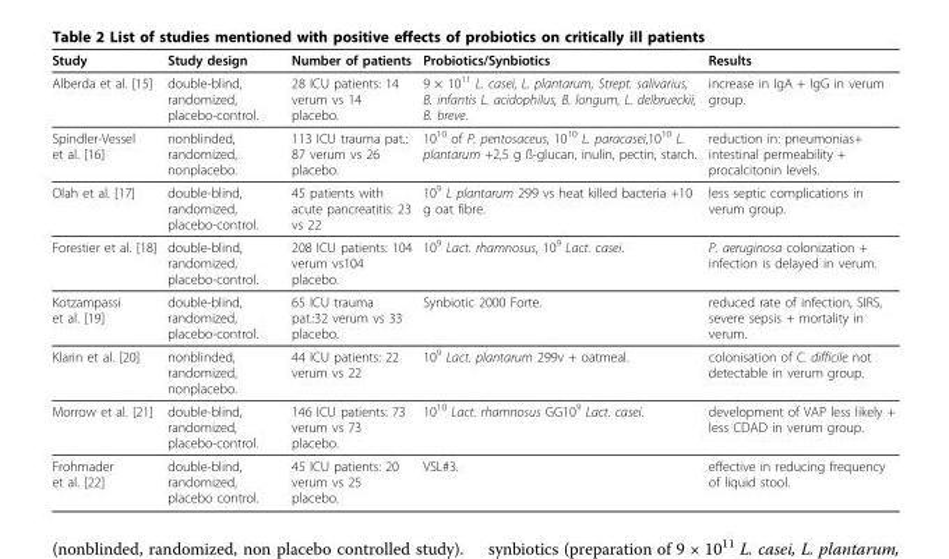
<table><thead><tr><td>Study</td><td>Study design</td><td>Number of patients</td><td>Probiotics/Synbiotics</td><td>Results</td></tr></thead><tbody><tr><td>Alberda et al. [15]</td><td>double-blind, randomized, placebo-control.</td><td>28 ICU patients: 14 verum vs 14 placebo.</td><td>9 × 10<sup>11</sup> L. casei, L. plantarum, Strept. salivarius, B. infantis L. acidophilus, B. longum, L. delbrueckii, B. breve.</td><td>increase in IgA + IgG in verum group.</td></tr><tr><td>Spindler-Vessel et al. [16]</td><td>nonblinded, randomized, nonplacebo.</td><td>113 ICU trauma pat.: 87 verum vs 26 placebo.</td><td>10<sup>10</sup> of P. pentosaceus, 10<sup>10</sup> L. paracasei,10<sup>10</sup> L. plantarum +2,5 g ß-glucan, inulin, pectin, starch.</td><td>reduction in: pneumonias+ intestinal permeability + procalcitonin levels.</td></tr><tr><td>Olah et al. [17]</td><td>double-blind, randomized, placebo-control.</td><td>45 patients with acute pancreatitis: 23 vs 22</td><td>10<sup>9</sup> L plantarum 299 vs heat killed bacteria +10 g oat fibre.</td><td>less septic complications in verum group.</td></tr><tr><td>Forestier et al. [18]</td><td>double-blind, randomized, placebo-control.</td><td>208 ICU patients: 104 verum vs104 placebo.</td><td>10<sup>9</sup> Lact. rhamnosus, 10<sup>9</sup> Lact. casei.</td><td>P. aeruginosa colonization + infection is delayed in verum.</td></tr><tr><td>Kotzampassi et al. [19]</td><td>double-blind, randomized, placebo-control.</td><td>65 ICU trauma pat.:32 verum vs 33 placebo.</td><td>Synbiotic 2000 Forte.</td><td>reduced rate of infection, SIRS, severe sepsis + mortality in verum.</td></tr><tr><td>Klarin et al. [20]</td><td>nonblinded, randomized, nonplacebo.</td><td>44 ICU patients: 22 verum vs 22</td><td>10<sup>9</sup> Lact. plantarum 299v + oatmeal.</td><td>colonisation of C. difficile not detectable in verum group.</td></tr><tr><td>Morrow et al. [21]</td><td>double-blind, randomized, placebo-control.</td><td>146 ICU patients: 73 verum vs 73 placebo.</td><td>10<sup>10</sup> Lact. rhamnosus GG10<sup>9</sup> Lact. casei.</td><td>development of VAP less likely + less CDAD in verum group.</td></tr><tr><td>Frohmader et al. [22]</td><td>double-blind, randomized, placebo control.</td><td>45 ICU patients: 20 verum vs 25 placebo.</td><td>VSL#3.</td><td>effective in reducing frequency of liquid stool.</td></tr></tbody></table>